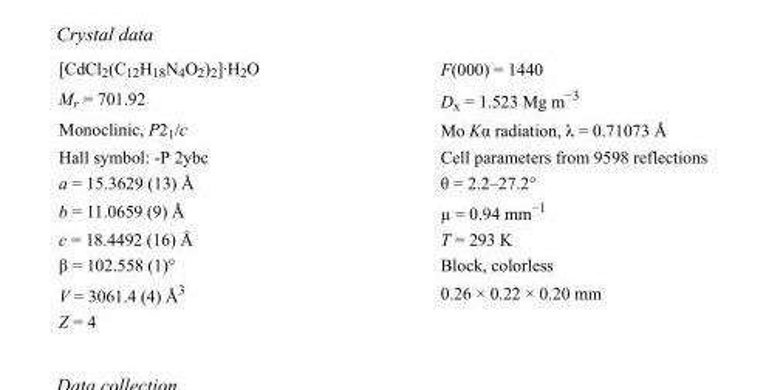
<table><tbody><tr><td>[CdCl<sub>2</sub>(C<sub>12</sub>H<sub>18</sub>N<sub>4</sub>O<sub>2</sub>)<sub>2</sub>]·H<sub>2</sub>O</td><td>F(000) = 1440</td></tr><tr><td>M<sub>r</sub> = 701.92</td><td>D<sub>x</sub> = 1.523 Mg m<sup>−3</sup></td></tr><tr><td>Monoclinic, P2<sub>1</sub>/c</td><td>Mo Kα radiation, λ = 0.71073 Å</td></tr><tr><td>Hall symbol: -P 2ybc</td><td>Cell parameters from 9598 reflections</td></tr><tr><td>a = 15.3629 (13) Å</td><td>θ = 2.2–27.2°</td></tr><tr><td>b = 11.0659 (9) Å</td><td>µ = 0.94 mm<sup>−1</sup></td></tr><tr><td>c = 18.4492 (16) Å</td><td>T = 293 K</td></tr><tr><td>β = 102.558 (1)°</td><td>Block, colorless</td></tr><tr><td>V = 3061.4 (4) Å<sup>3</sup></td><td>0.26 × 0.22 × 0.20 mm</td></tr><tr><td>Z = 4</td><td></td></tr></tbody></table>